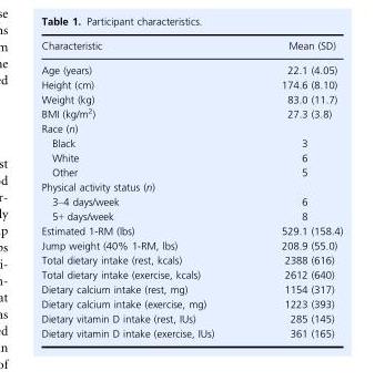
<table><thead><tr><td>Characteristic</td><td>Mean (SD)</td></tr></thead><tbody><tr><td>Age (years)</td><td>22.1 (4.05)</td></tr><tr><td>Height (cm)</td><td>174.6 (8.10)</td></tr><tr><td>Weight (kg)</td><td>83.0 (11.7)</td></tr><tr><td>BMI (kg/m<sup>2</sup>)</td><td>27.3 (3.8)</td></tr><tr><td colspan="2">Race (n)</td></tr><tr><td>Black</td><td>3</td></tr><tr><td>White</td><td>6</td></tr><tr><td>Other</td><td>5</td></tr><tr><td colspan="2">Physical activity status (n)</td></tr><tr><td>3–4 days/week</td><td>6</td></tr><tr><td>5+ days/week</td><td>8</td></tr><tr><td>Estimated 1-RM (lbs)</td><td>529.1 (158.4)</td></tr><tr><td>Jump weight (40% 1-RM, lbs)</td><td>208.9 (55.0)</td></tr><tr><td>Total dietary intake (rest, kcals)</td><td>2388 (616)</td></tr><tr><td>Total dietary intake (exercise, kcals)</td><td>2612 (640)</td></tr><tr><td>Dietary calcium intake (rest, mg)</td><td>1154 (317)</td></tr><tr><td>Dietary calcium intake (exercise, mg)</td><td>1223 (393)</td></tr><tr><td>Dietary vitamin D intake (rest, IUs)</td><td>285 (145)</td></tr><tr><td>Dietary vitamin D intake (exercise, IUs)</td><td>361 (165)</td></tr></tbody></table>